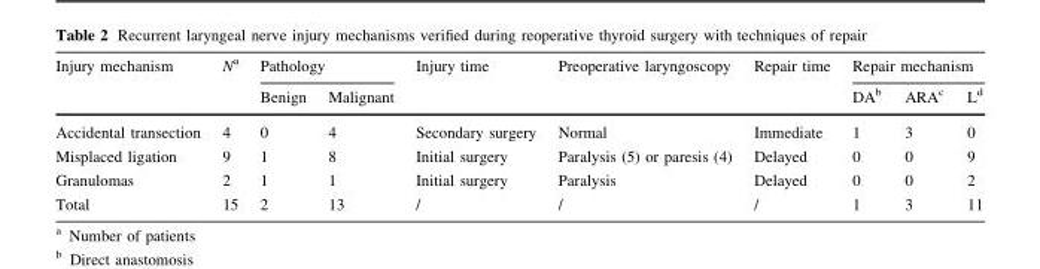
<table><thead><tr><td rowspan="2">Injury mechanism</td><td rowspan="2">N<sup>a</sup></td><td colspan="2">Pathology</td><td rowspan="2">Injury time</td><td rowspan="2">Preoperative laryngoscopy</td><td rowspan="2">Repair time</td><td colspan="3">Repair mechanism</td></tr><tr><td>Benign</td><td>Malignant</td><td>DA<sup>b</sup></td><td>ARA<sup>c</sup></td><td>L<sup>d</sup></td></tr></thead><tbody><tr><td>Accidental transection</td><td>4</td><td>0</td><td>4</td><td>Secondary surgery</td><td>Normal</td><td>Immediate</td><td>1</td><td>3</td><td>0</td></tr><tr><td>Misplaced ligation</td><td>9</td><td>1</td><td>8</td><td>Initial surgery</td><td>Paralysis (5) or paresis (4)</td><td>Delayed</td><td>0</td><td>0</td><td>9</td></tr><tr><td>Granulomas</td><td>2</td><td>1</td><td>1</td><td>Initial surgery</td><td>Paralysis</td><td>Delayed</td><td>0</td><td>0</td><td>2</td></tr><tr><td>Total</td><td>15</td><td>2</td><td>13</td><td>/</td><td>/</td><td>/</td><td>1</td><td>3</td><td>11</td></tr></tbody></table>